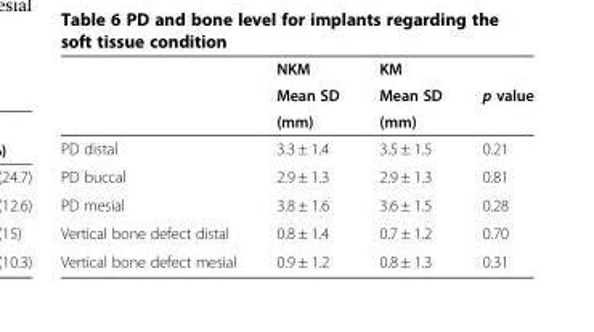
<table><thead><tr><td rowspan="3"></td><td rowspan="3">NKM Mean SD (mm)</td><td rowspan="3">KM Mean SD (mm)</td><td rowspan="3">p value</td></tr><tr></tr><tr></tr></thead><tbody><tr><td>PD distal</td><td>3.3 ± 1.4</td><td>3.5 ± 1.5</td><td>0.21</td></tr><tr><td>PD buccal</td><td>2.9 ± 1.3</td><td>2.9 ± 1.3</td><td>0.81</td></tr><tr><td>PD mesial</td><td>3.8 ± 1.6</td><td>3.6 ± 1.5</td><td>0.28</td></tr><tr><td>Vertical bone defect distal</td><td>0.8 ± 1.4</td><td>0.7 ± 1.2</td><td>0.70</td></tr><tr><td>Vertical bone defect mesial</td><td>0.9 ± 1.2</td><td>0.8 ± 1.3</td><td>0.31</td></tr></tbody></table>